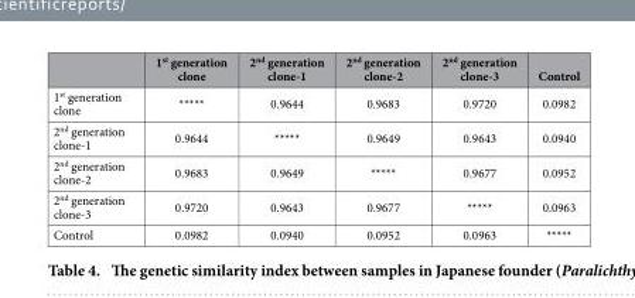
<table><thead><tr><td></td><td>1<sup>st</sup> generation clone</td><td>2<sup>nd</sup> generation clone-1</td><td>2<sup>nd</sup> generation clone-2</td><td>2<sup>nd</sup> generation clone-3</td><td>Control</td></tr></thead><tbody><tr><td>1<sup>st</sup> generation clone</td><td>*****</td><td>0.9644</td><td>0.9683</td><td>0.9720</td><td>0.0982</td></tr><tr><td>2<sup>nd</sup> generation clone-1</td><td>0.9644</td><td>*****</td><td>0.9649</td><td>0.9643</td><td>0.0940</td></tr><tr><td>2<sup>nd</sup> generation clone-2</td><td>0.9683</td><td>0.9649</td><td>*****</td><td>0.9677</td><td>0.0952</td></tr><tr><td>2<sup>nd</sup> generation clone-3</td><td>0.9720</td><td>0.9643</td><td>0.9677</td><td>*****</td><td>0.0963</td></tr><tr><td>Control</td><td>0.0982</td><td>0.0940</td><td>0.0952</td><td>0.0963</td><td>*****</td></tr></tbody></table>